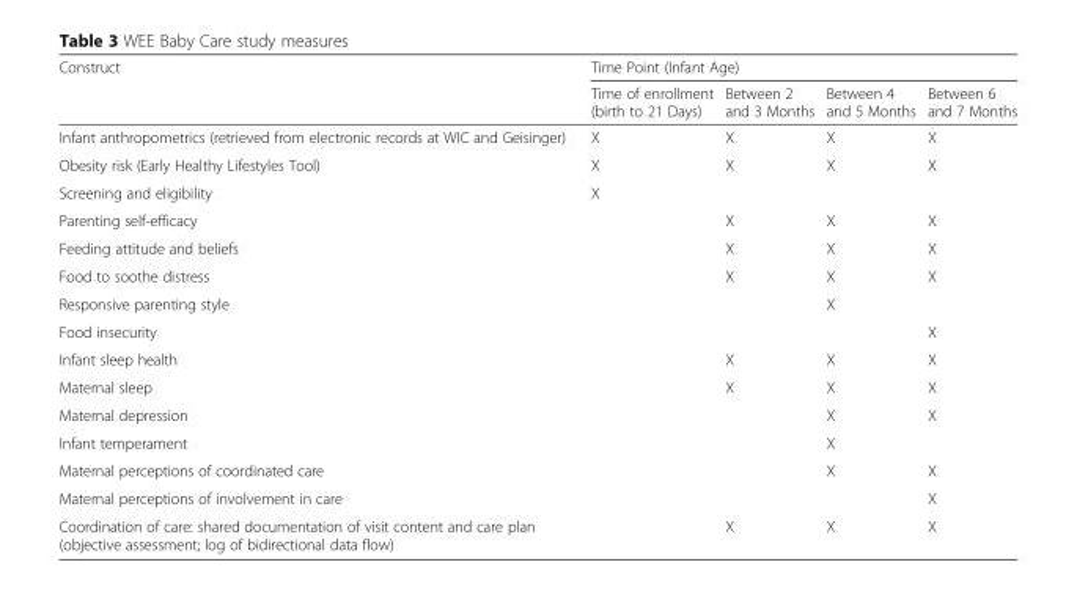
<table><thead><tr><td rowspan="2">Construct</td><td colspan="4">Time Point (Infant Age)</td></tr><tr><td>Time of enrollment (birth to 21 Days)</td><td>Between 2 and 3 Months</td><td>Between 4 and 5 Months</td><td>Between 6 and 7 Months</td></tr></thead><tbody><tr><td>Infant anthropometrics (retrieved from electronic records at WIC and Geisinger)</td><td>X</td><td>X</td><td>X</td><td>X</td></tr><tr><td>Obesity risk (Early Healthy Lifestyles Tool)</td><td>X</td><td>X</td><td>X</td><td>X</td></tr><tr><td>Screening and eligibility</td><td>X</td><td></td><td></td><td></td></tr><tr><td>Parenting self-efficacy</td><td></td><td>X</td><td>X</td><td>X</td></tr><tr><td>Feeding attitude and beliefs</td><td></td><td>X</td><td>X</td><td>X</td></tr><tr><td>Food to soothe distress</td><td></td><td>X</td><td>X</td><td>X</td></tr><tr><td>Responsive parenting style</td><td></td><td></td><td>X</td><td></td></tr><tr><td>Food insecurity</td><td></td><td></td><td></td><td>X</td></tr><tr><td>Infant sleep health</td><td></td><td>X</td><td>X</td><td>X</td></tr><tr><td>Maternal sleep</td><td></td><td>X</td><td>X</td><td>X</td></tr><tr><td>Maternal depression</td><td></td><td></td><td>X</td><td>X</td></tr><tr><td>Infant temperament</td><td></td><td></td><td>X</td><td></td></tr><tr><td>Maternal perceptions of coordinated care</td><td></td><td></td><td>X</td><td>X</td></tr><tr><td>Maternal perceptions of involvement in care</td><td></td><td></td><td></td><td>X</td></tr><tr><td>Coordination of care: shared documentation of visit content and care plan (objective assessment; log of bidirectional data flow)</td><td></td><td>X</td><td>X</td><td>X</td></tr></tbody></table>